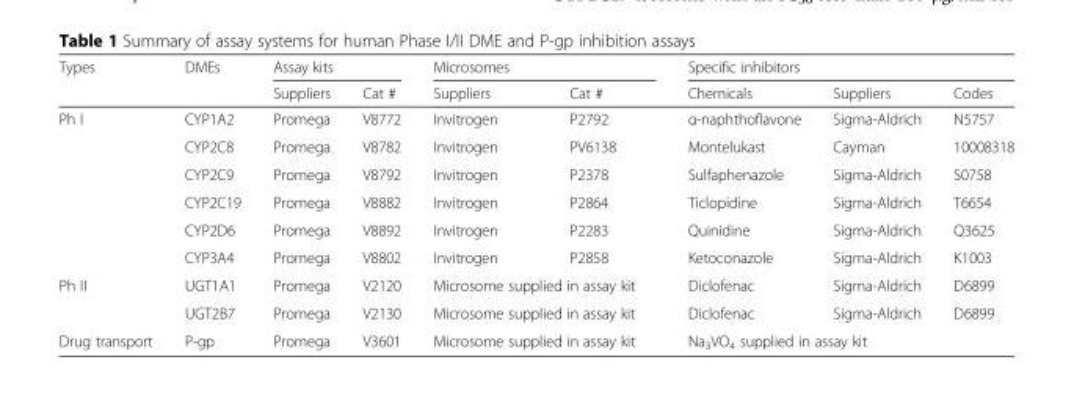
<table><thead><tr><td rowspan="2">Types</td><td rowspan="2">DMEs</td><td colspan="2">Assay kits</td><td colspan="2">Microsomes</td><td colspan="3">Specific inhibitors</td></tr><tr><td>Suppliers</td><td>Cat #</td><td>Suppliers</td><td>Cat #</td><td>Chemicals</td><td>Suppliers</td><td>Codes</td></tr></thead><tbody><tr><td rowspan="6">Ph I</td><td>CYP1A2</td><td>Promega</td><td>V8772</td><td>Invitrogen</td><td>P2792</td><td>α-naphthoflavone</td><td>Sigma-Aldrich</td><td>N5757</td></tr><tr><td>CYP2C8</td><td>Promega</td><td>V8782</td><td>Invitrogen</td><td>PV6138</td><td>Montelukast</td><td>Cayman</td><td>10008318</td></tr><tr><td>CYP2C9</td><td>Promega</td><td>V8792</td><td>Invitrogen</td><td>P2378</td><td>Sulfaphenazole</td><td>Sigma-Aldrich</td><td>S0758</td></tr><tr><td>CYP2C19</td><td>Promega</td><td>V8882</td><td>Invitrogen</td><td>P2864</td><td>Ticlopidine</td><td>Sigma-Aldrich</td><td>T6654</td></tr><tr><td>CYP2D6</td><td>Promega</td><td>V8892</td><td>Invitrogen</td><td>P2283</td><td>Quinidine</td><td>Sigma-Aldrich</td><td>Q3625</td></tr><tr><td>CYP3A4</td><td>Promega</td><td>V8802</td><td>Invitrogen</td><td>P2858</td><td>Ketoconazole</td><td>Sigma-Aldrich</td><td>K1003</td></tr><tr><td rowspan="2">Ph II</td><td>UGT1A1</td><td>Promega</td><td>V2120</td><td colspan="2">Microsome supplied in assay kit</td><td>Diclofenac</td><td>Sigma-Aldrich</td><td>D6899</td></tr><tr><td>UGT2B7</td><td>Promega</td><td>V2130</td><td colspan="2">Microsome supplied in assay kit</td><td>Diclofenac</td><td>Sigma-Aldrich</td><td>D6899</td></tr><tr><td>Drug transport</td><td>P-gp</td><td>Promega</td><td>V3601</td><td colspan="2">Microsome supplied in assay kit</td><td colspan="3">Na<sub>3</sub>VO<sub>4</sub> supplied in assay kit</td></tr></tbody></table>